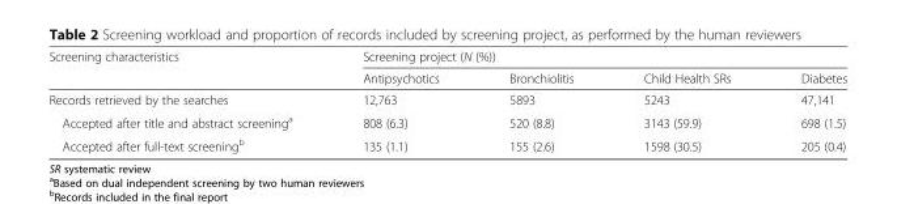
<table><thead><tr><td rowspan="2">Screening characteristics</td><td colspan="4">Screening project (N (%))</td></tr><tr><td>Antipsychotics</td><td>Bronchiolitis</td><td>Child Health SRs</td><td>Diabetes</td></tr></thead><tbody><tr><td>Records retrieved by the searches</td><td>12,763</td><td>5893</td><td>5243</td><td>47,141</td></tr><tr><td>Accepted after title and abstract screening<sup>a</sup></td><td>808 (6.3)</td><td>520 (8.8)</td><td>3143 (59.9)</td><td>698 (1.5)</td></tr><tr><td>Accepted after full-text screening<sup>b</sup></td><td>135 (1.1)</td><td>155 (2.6)</td><td>1598 (30.5)</td><td>205 (0.4)</td></tr></tbody></table>